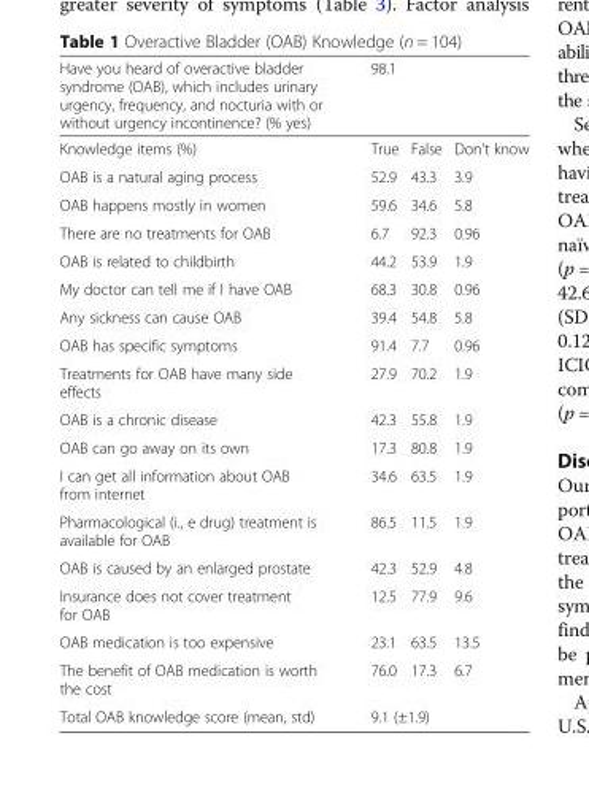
<table><thead><tr><td rowspan="2">Have you heard of overactive bladder syndrome (OAB), which includes urinary urgency, frequency, and nocturia with or without urgency incontinence? (% yes) Knowledge items (%)</td><td colspan="3">98.1</td></tr><tr><td>True</td><td>False</td><td>Don’t know</td></tr></thead><tbody><tr><td>OAB is a natural aging process</td><td>52.9</td><td>43.3</td><td>3.9</td></tr><tr><td>OAB happens mostly in women</td><td>59.6</td><td>34.6</td><td>5.8</td></tr><tr><td>There are no treatments for OAB</td><td>6.7</td><td>92.3</td><td>0.96</td></tr><tr><td>OAB is related to childbirth</td><td>44.2</td><td>53.9</td><td>1.9</td></tr><tr><td>My doctor can tell me if I have OAB</td><td>68.3</td><td>30.8</td><td>0.96</td></tr><tr><td>Any sickness can cause OAB</td><td>39.4</td><td>54.8</td><td>5.8</td></tr><tr><td>OAB has specific symptoms</td><td>91.4</td><td>7.7</td><td>0.96</td></tr><tr><td>Treatments for OAB have many side effects</td><td>27.9</td><td>70.2</td><td>1.9</td></tr><tr><td>OAB is a chronic disease</td><td>42.3</td><td>55.8</td><td>1.9</td></tr><tr><td>OAB can go away on its own</td><td>17.3</td><td>80.8</td><td>1.9</td></tr><tr><td>I can get all information about OAB from internet</td><td>34.6</td><td>63.5</td><td>1.9</td></tr><tr><td>Pharmacological (i., e drug) treatment is available for OAB</td><td>86.5</td><td>11.5</td><td>1.9</td></tr><tr><td>OAB is caused by an enlarged prostate</td><td>42.3</td><td>52.9</td><td>4.8</td></tr><tr><td>Insurance does not cover treatment for OAB</td><td>12.5</td><td>77.9</td><td>9.6</td></tr><tr><td>OAB medication is too expensive</td><td>23.1</td><td>63.5</td><td>13.5</td></tr><tr><td>The benefit of OAB medication is worth the cost</td><td>76.0</td><td>17.3</td><td>6.7</td></tr><tr><td>Total OAB knowledge score (mean, std)</td><td colspan="3">9.1 (±1.9)</td></tr></tbody></table>